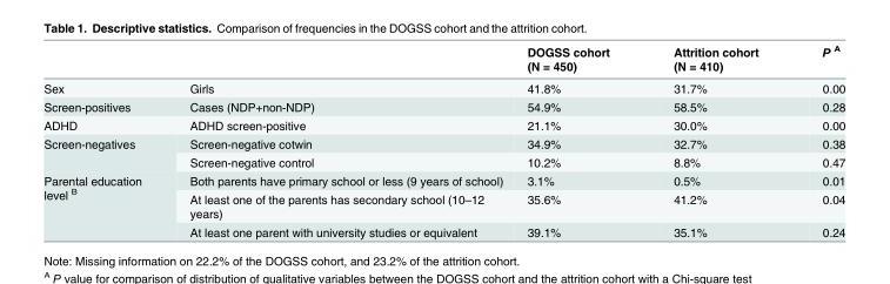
<table><thead><tr><td></td><td></td><td>DOGSS cohort (N = 450)</td><td>Attrition cohort (N = 410)</td><td>P <sup>A</sup></td></tr></thead><tbody><tr><td>Sex</td><td>Girls</td><td>41.8%</td><td>31.7%</td><td>0.00</td></tr><tr><td>Screen-positives</td><td>Cases (NDP+non-NDP)</td><td>54.9%</td><td>58.5%</td><td>0.28</td></tr><tr><td>ADHD</td><td>ADHD screen-positive</td><td>21.1%</td><td>30.0%</td><td>0.00</td></tr><tr><td rowspan="2">Screen-negatives</td><td>Screen-negative cotwin</td><td>34.9%</td><td>32.7%</td><td>0.38</td></tr><tr><td>Screen-negative control</td><td>10.2%</td><td>8.8%</td><td>0.47</td></tr><tr><td rowspan="3">Parental education level <sup>B</sup></td><td>Both parents have primary school or less (9 years of school)</td><td>3.1%</td><td>0.5%</td><td>0.01</td></tr><tr><td>At least one of the parents has secondary school (10–12 years)</td><td>35.6%</td><td>41.2%</td><td>0.04</td></tr><tr><td>At least one parent with university studies or equivalent</td><td>39.1%</td><td>35.1%</td><td>0.24</td></tr></tbody></table>